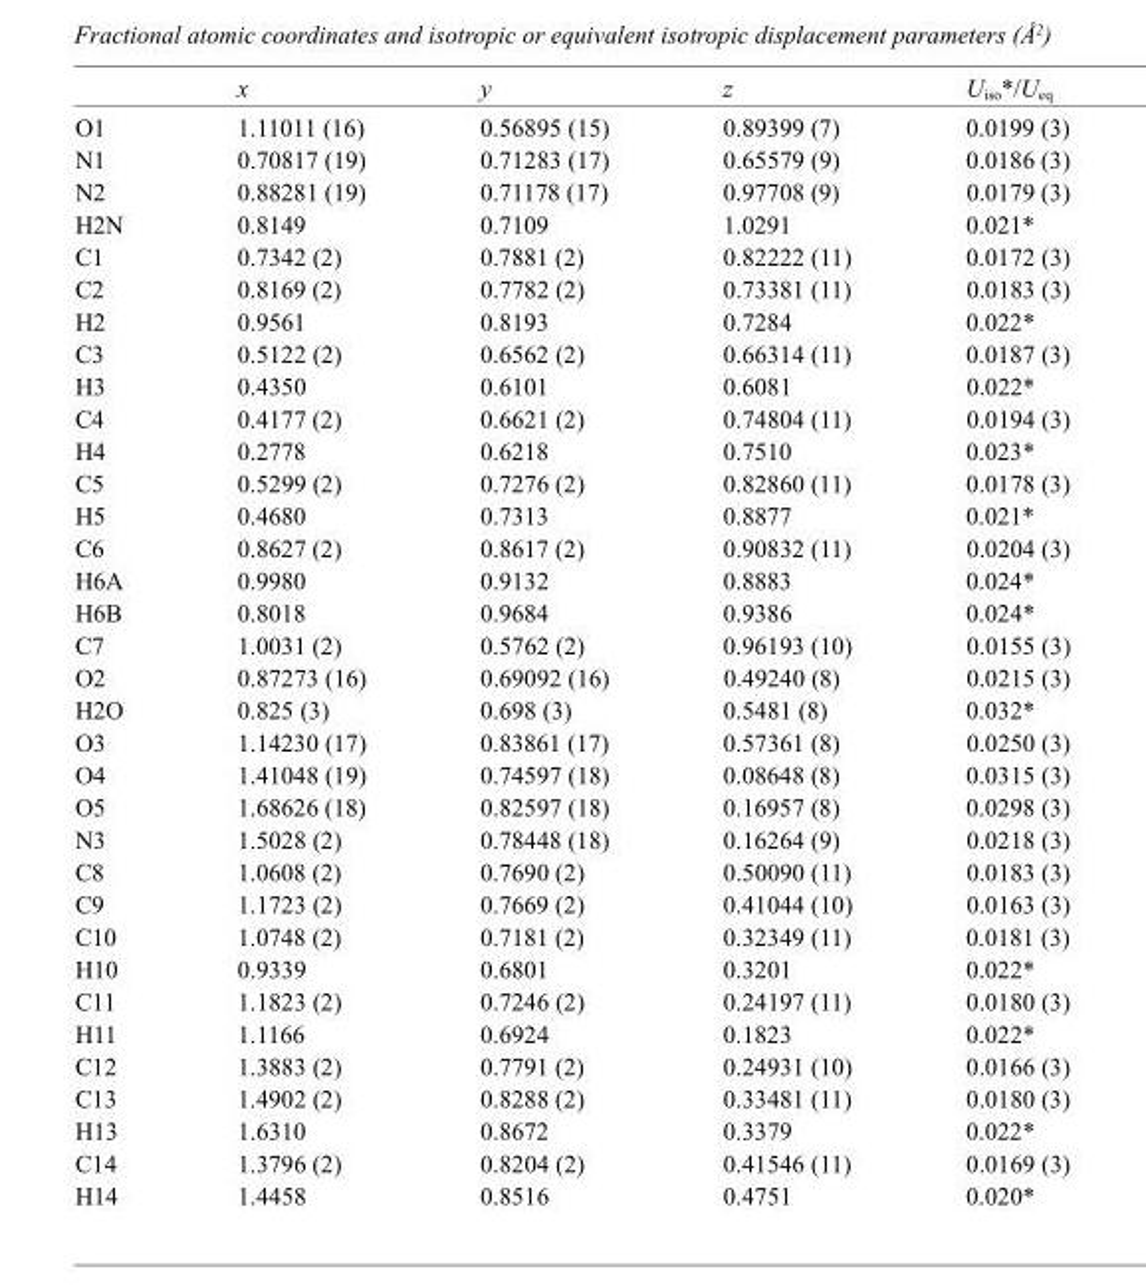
<table><thead><tr><td></td><td>x</td><td>y</td><td>z</td><td>U<sub>iso</sub>*/U<sub>eq</sub></td></tr></thead><tbody><tr><td>O1</td><td>1.11011 (16)</td><td>0.56895 (15)</td><td>0.89399 (7)</td><td>0.0199 (3)</td></tr><tr><td>N1</td><td>0.70817 (19)</td><td>0.71283 (17)</td><td>0.65579 (9)</td><td>0.0186 (3)</td></tr><tr><td>N2</td><td>0.88281 (19)</td><td>0.71178 (17)</td><td>0.97708 (9)</td><td>0.0179 (3)</td></tr><tr><td>H2N</td><td>0.8149</td><td>0.7109</td><td>1.0291</td><td>0.021*</td></tr><tr><td>C1</td><td>0.7342 (2)</td><td>0.7881 (2)</td><td>0.82222 (11)</td><td>0.0172 (3)</td></tr><tr><td>C2</td><td>0.8169 (2)</td><td>0.7782 (2)</td><td>0.73381 (11)</td><td>0.0183 (3)</td></tr><tr><td>H2</td><td>0.9561</td><td>0.8193</td><td>0.7284</td><td>0.022*</td></tr><tr><td>C3</td><td>0.5122 (2)</td><td>0.6562 (2)</td><td>0.66314 (11)</td><td>0.0187 (3)</td></tr><tr><td>H3</td><td>0.4350</td><td>0.6101</td><td>0.6081</td><td>0.022*</td></tr><tr><td>C4</td><td>0.4177 (2)</td><td>0.6621 (2)</td><td>0.74804 (11)</td><td>0.0194 (3)</td></tr><tr><td>H4</td><td>0.2778</td><td>0.6218</td><td>0.7510</td><td>0.023*</td></tr><tr><td>C5</td><td>0.5299 (2)</td><td>0.7276 (2)</td><td>0.82860 (11)</td><td>0.0178 (3)</td></tr><tr><td>H5</td><td>0.4680</td><td>0.7313</td><td>0.8877</td><td>0.021*</td></tr><tr><td>C6</td><td>0.8627 (2)</td><td>0.8617 (2)</td><td>0.90832 (11)</td><td>0.0204 (3)</td></tr><tr><td>H6A</td><td>0.9980</td><td>0.9132</td><td>0.8883</td><td>0.024*</td></tr><tr><td>H6B</td><td>0.8018</td><td>0.9684</td><td>0.9386</td><td>0.024*</td></tr><tr><td>C7</td><td>1.0031 (2)</td><td>0.5762 (2)</td><td>0.96193 (10)</td><td>0.0155 (3)</td></tr><tr><td>O2</td><td>0.87273 (16)</td><td>0.69092 (16)</td><td>0.49240 (8)</td><td>0.0215 (3)</td></tr><tr><td>H2O</td><td>0.825 (3)</td><td>0.698 (3)</td><td>0.5481 (8)</td><td>0.032*</td></tr><tr><td>O3</td><td>1.14230 (17)</td><td>0.83861 (17)</td><td>0.57361 (8)</td><td>0.0250 (3)</td></tr><tr><td>O4</td><td>1.41048 (19)</td><td>0.74597 (18)</td><td>0.08648 (8)</td><td>0.0315 (3)</td></tr><tr><td>O5</td><td>1.68626 (18)</td><td>0.82597 (18)</td><td>0.16957 (8)</td><td>0.0298 (3)</td></tr><tr><td>N3</td><td>1.5028 (2)</td><td>0.78448 (18)</td><td>0.16264 (9)</td><td>0.0218 (3)</td></tr><tr><td>C8</td><td>1.0608 (2)</td><td>0.7690 (2)</td><td>0.50090 (11)</td><td>0.0183 (3)</td></tr><tr><td>C9</td><td>1.1723 (2)</td><td>0.7669 (2)</td><td>0.41044 (10)</td><td>0.0163 (3)</td></tr><tr><td>C10</td><td>1.0748 (2)</td><td>0.7181 (2)</td><td>0.32349 (11)</td><td>0.0181 (3)</td></tr><tr><td>H10</td><td>0.9339</td><td>0.6801</td><td>0.3201</td><td>0.022*</td></tr><tr><td>C11</td><td>1.1823 (2)</td><td>0.7246 (2)</td><td>0.24197 (11)</td><td>0.0180 (3)</td></tr><tr><td>H11</td><td>1.1166</td><td>0.6924</td><td>0.1823</td><td>0.022*</td></tr><tr><td>C12</td><td>1.3883 (2)</td><td>0.7791 (2)</td><td>0.24931 (10)</td><td>0.0166 (3)</td></tr><tr><td>C13</td><td>1.4902 (2)</td><td>0.8288 (2)</td><td>0.33481 (11)</td><td>0.0180 (3)</td></tr><tr><td>H13</td><td>1.6310</td><td>0.8672</td><td>0.3379</td><td>0.022*</td></tr><tr><td>C14</td><td>1.3796 (2)</td><td>0.8204 (2)</td><td>0.41546 (11)</td><td>0.0169 (3)</td></tr><tr><td>H14</td><td>1.4458</td><td>0.8516</td><td>0.4751</td><td>0.020*</td></tr></tbody></table>